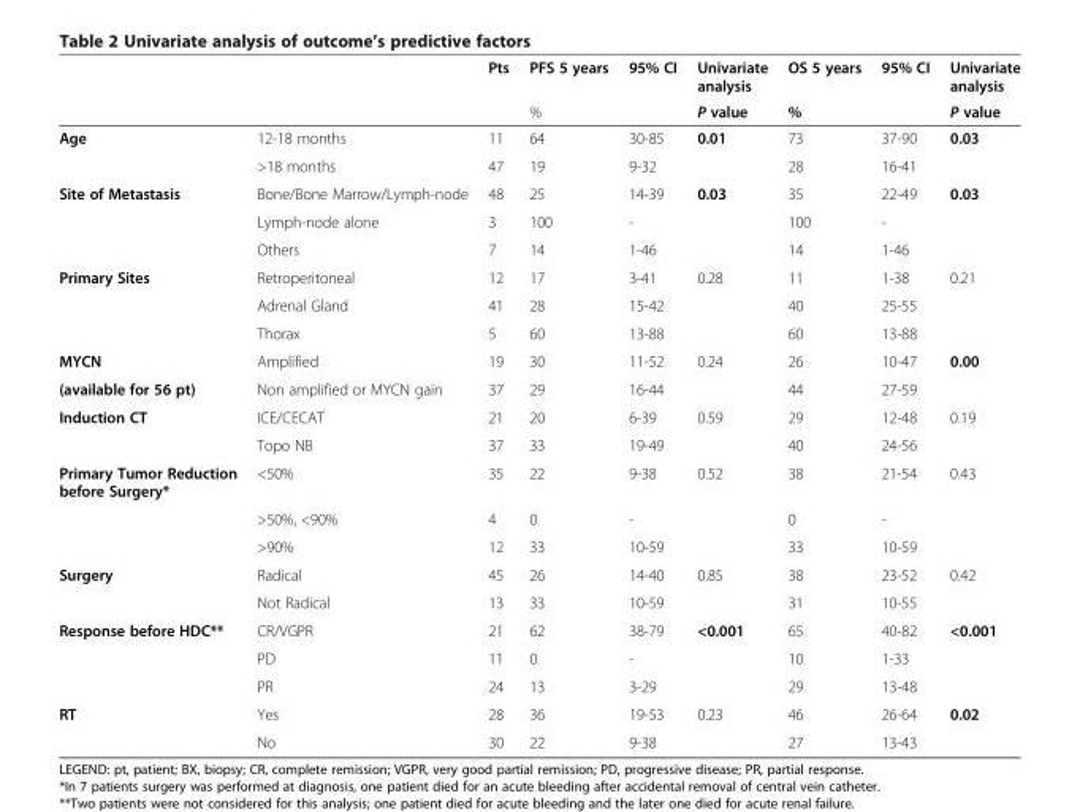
<table><thead><tr><td rowspan="2"></td><td rowspan="2"></td><td rowspan="2">Pts</td><td rowspan="2">PFS 5 years %</td><td rowspan="2">95% CI</td><td rowspan="2">Univariate analysis P value</td><td rowspan="2">OS 5 years %</td><td rowspan="2">95% CI</td><td rowspan="2">Univariate analysis P value</td></tr><tr></tr></thead><tbody><tr><td rowspan="2">Age</td><td>12-18 months</td><td>11</td><td>64</td><td>30-85</td><td>0.01</td><td>73</td><td>37-90</td><td>0.03</td></tr><tr><td>&gt;18 months</td><td>47</td><td>19</td><td>9-32</td><td></td><td>28</td><td>16-41</td><td></td></tr><tr><td rowspan="3">Site of Metastasis</td><td>Bone/Bone Marrow/Lymph-node</td><td>48</td><td>25</td><td>14-39</td><td>0.03</td><td>35</td><td>22-49</td><td>0.03</td></tr><tr><td>Lymph-node alone</td><td>3</td><td>100</td><td>-</td><td></td><td>100</td><td>-</td><td></td></tr><tr><td>Others</td><td>7</td><td>14</td><td>1-46</td><td></td><td>14</td><td>1-46</td><td></td></tr><tr><td rowspan="3">Primary Sites</td><td>Retroperitoneal</td><td>12</td><td>17</td><td>3-41</td><td>0.28</td><td>11</td><td>1-38</td><td>0.21</td></tr><tr><td>Adrenal Gland</td><td>41</td><td>28</td><td>15-42</td><td></td><td>40</td><td>25-55</td><td></td></tr><tr><td>Thorax</td><td>5</td><td>60</td><td>13-88</td><td></td><td>60</td><td>13-88</td><td></td></tr><tr><td>MYCN</td><td>Amplified</td><td>19</td><td>30</td><td>11-52</td><td>0.24</td><td>26</td><td>10-47</td><td>0.00</td></tr><tr><td>(available for 56 pt)</td><td>Non amplified or MYCN gain</td><td>37</td><td>29</td><td>16-44</td><td></td><td>44</td><td>27-59</td><td></td></tr><tr><td rowspan="2">Induction CT</td><td>ICE/CECAT</td><td>21</td><td>20</td><td>6-39</td><td>0.59</td><td>29</td><td>12-48</td><td>0.19</td></tr><tr><td>Topo NB</td><td>37</td><td>33</td><td>19-49</td><td></td><td>40</td><td>24-56</td><td></td></tr><tr><td rowspan="3">Primary Tumor Reduction before Surgery*</td><td>&lt;50%</td><td>35</td><td>22</td><td>9-38</td><td>0.52</td><td>38</td><td>21-54</td><td>0.43</td></tr><tr><td>&gt;50%, &lt;90%</td><td>4</td><td>0</td><td>-</td><td></td><td>0</td><td>-</td><td></td></tr><tr><td>&gt;90%</td><td>12</td><td>33</td><td>10-59</td><td></td><td>33</td><td>10-59</td><td></td></tr><tr><td rowspan="2">Surgery</td><td>Radical</td><td>45</td><td>26</td><td>14-40</td><td>0.85</td><td>38</td><td>23-52</td><td>0.42</td></tr><tr><td>Not Radical</td><td>13</td><td>33</td><td>10-59</td><td></td><td>31</td><td>10-55</td><td></td></tr><tr><td rowspan="3">Response before HDC**</td><td>CR/VGPR</td><td>21</td><td>62</td><td>38-79</td><td>&lt;0.001</td><td>65</td><td>40-82</td><td>&lt;0.001</td></tr><tr><td>PD</td><td>11</td><td>0</td><td>-</td><td></td><td>10</td><td>1-33</td><td></td></tr><tr><td>PR</td><td>24</td><td>13</td><td>3-29</td><td></td><td>29</td><td>13-48</td><td></td></tr><tr><td rowspan="2">RT</td><td>Yes</td><td>28</td><td>36</td><td>19-53</td><td>0.23</td><td>46</td><td>26-64</td><td>0.02</td></tr><tr><td>No</td><td>30</td><td>22</td><td>9-38</td><td></td><td>27</td><td>13-43</td><td></td></tr></tbody></table>